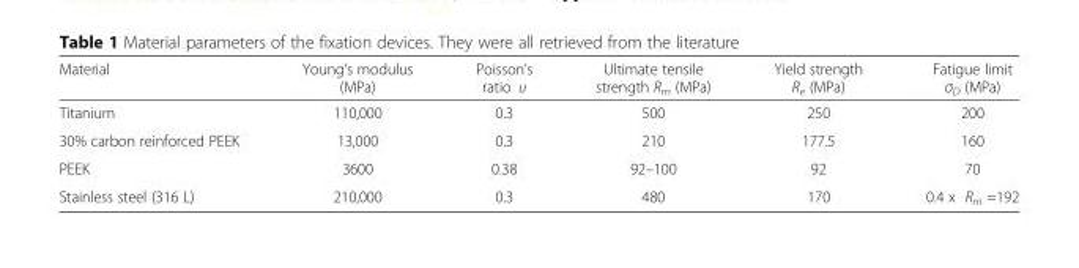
<table><thead><tr><td>Material</td><td>Young’s modulus (MPa)</td><td>Poisson’s ratio υ</td><td>Ultimate tensile strength R<sub>m</sub> (MPa)</td><td>Yield strength R<sub>e</sub> (MPa)</td><td>Fatigue limit σ<sub>D</sub> (MPa)</td></tr></thead><tbody><tr><td>Titanium</td><td>110,000</td><td>0.3</td><td>500</td><td>250</td><td>200</td></tr><tr><td>30% carbon reinforced PEEK</td><td>13,000</td><td>0.3</td><td>210</td><td>177.5</td><td>160</td></tr><tr><td>PEEK</td><td>3600</td><td>0.38</td><td>92–100</td><td>92</td><td>70</td></tr><tr><td>Stainless steel (316 L)</td><td>210,000</td><td>0.3</td><td>480</td><td>170</td><td>0.4 x R<sub>m</sub> =192</td></tr></tbody></table>